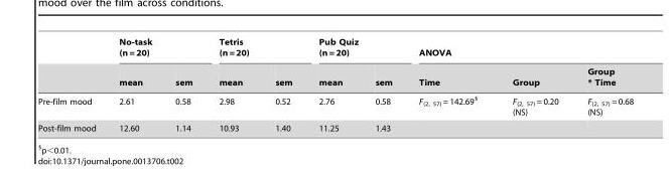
<table><thead><tr><td rowspan="2"></td><td colspan="2">No-task (n = 20)</td><td colspan="2">Tetris (n = 20)</td><td colspan="2">Pub Quiz (n = 20)</td><td colspan="3">ANOVA</td></tr><tr><td>mean</td><td>sem</td><td>mean</td><td>sem</td><td>mean</td><td>sem</td><td>Time</td><td>Group</td><td>Group * Time</td></tr></thead><tbody><tr><td>Pre-film mood</td><td>2.61</td><td>0.58</td><td>2.98</td><td>0.52</td><td>2.76</td><td>0.58</td><td>F<sub>(2, 57)</sub> = 142.69§</td><td>F<sub>(2, 57)</sub> = 0.20 (NS)</td><td>F<sub>(2, 57)</sub> = 0.68 (NS)</td></tr><tr><td>Post-film mood</td><td>12.60</td><td>1.14</td><td>10.93</td><td>1.40</td><td>11.25</td><td>1.43</td><td></td><td></td><td></td></tr></tbody></table>